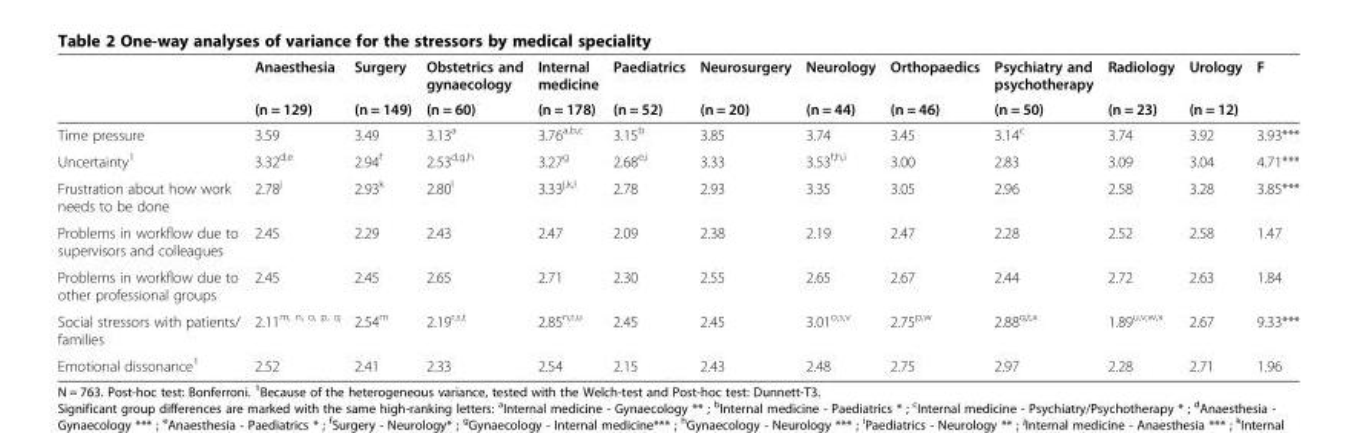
<table><thead><tr><td rowspan="2"></td><td rowspan="2">Anaesthesia (n = 129)</td><td rowspan="2">Surgery (n = 149)</td><td rowspan="2">Obstetrics and gynaecology (n = 60)</td><td rowspan="2">Internal medicine (n = 178)</td><td rowspan="2">Paediatrics (n = 52)</td><td rowspan="2">Neurosurgery (n = 20)</td><td rowspan="2">Neurology (n = 44)</td><td rowspan="2">Orthopaedics (n = 46)</td><td rowspan="2">Psychiatry and psychotherapy (n = 50)</td><td rowspan="2">Radiology (n = 23)</td><td rowspan="2">Urology (n = 12)</td><td rowspan="2">F</td></tr><tr></tr></thead><tbody><tr><td>Time pressure</td><td>3.59</td><td>3.49</td><td>3.13<sup>a</sup></td><td>3.76<sup>a,b,c</sup></td><td>3.15<sup>b</sup></td><td>3.85</td><td>3.74</td><td>3.45</td><td>3.14<sup>c</sup></td><td>3.74</td><td>3.92</td><td>3.93***</td></tr><tr><td>Uncertainty<sup>1</sup></td><td>3.32<sup>d,e</sup></td><td>2.94<sup>f</sup></td><td>2.53<sup>d,g,h</sup></td><td>3.27<sup>g</sup></td><td>2.68<sup>e,i</sup></td><td>3.33</td><td>3.53<sup>f,h,i</sup></td><td>3.00</td><td>2.83</td><td>3.09</td><td>3.04</td><td>4.71***</td></tr><tr><td>Frustration about how work needs to be done</td><td>2.78<sup>j</sup></td><td>2.93<sup>k</sup></td><td>2.80<sup>l</sup></td><td>3.33<sup>j,k,l</sup></td><td>2.78</td><td>2.93</td><td>3.35</td><td>3.05</td><td>2.96</td><td>2.58</td><td>3.28</td><td>3.85***</td></tr><tr><td>Problems in workflow due to supervisors and colleagues</td><td>2.45</td><td>2.29</td><td>2.43</td><td>2.47</td><td>2.09</td><td>2.38</td><td>2.19</td><td>2.47</td><td>2.28</td><td>2.52</td><td>2.58</td><td>1.47</td></tr><tr><td>Problems in workflow due to other professional groups</td><td>2.45</td><td>2.45</td><td>2.65</td><td>2.71</td><td>2.30</td><td>2.55</td><td>2.65</td><td>2.67</td><td>2.44</td><td>2.72</td><td>2.63</td><td>1.84</td></tr><tr><td>Social stressors with patients/ families</td><td>2.11<sup>m, n, o, p, q</sup></td><td>2.54<sup>m</sup></td><td>2.19<sup>r,s,t</sup></td><td>2.85<sup>n,r,u</sup></td><td>2.45</td><td>2.45</td><td>3.01<sup>o,s,v</sup></td><td>2.75<sup>p,w</sup></td><td>2.88<sup>q,t,x</sup></td><td>1.89<sup>u,v,w,x</sup></td><td>2.67</td><td>9.33***</td></tr><tr><td>Emotional dissonance<sup>1</sup></td><td>2.52</td><td>2.41</td><td>2.33</td><td>2.54</td><td>2.15</td><td>2.43</td><td>2.48</td><td>2.75</td><td>2.97</td><td>2.28</td><td>2.71</td><td>1.96</td></tr></tbody></table>